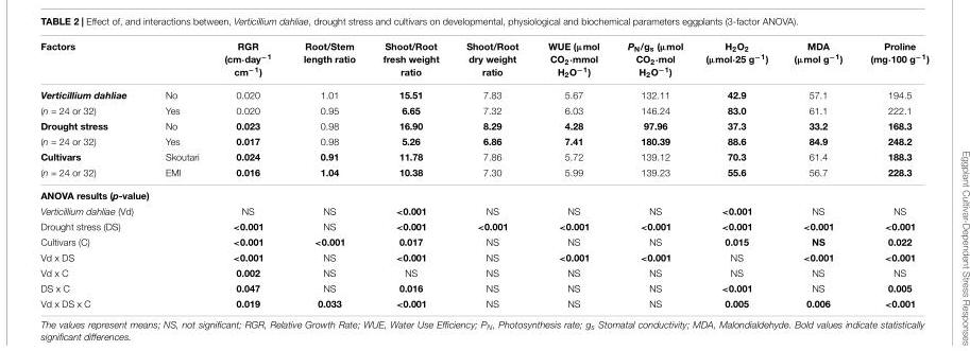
<table><thead><tr><td>Factors</td><td></td><td>RGR (cm·day−1 cm−1)</td><td>Root/Stem length ratio</td><td>Shoot/Root fresh weight ratio</td><td>Shoot/Root dry weight ratio</td><td>WUE (µmol CO2·mmol H2O−1)</td><td>PN/gs (µmol CO2·mol H2O−1)</td><td>H2O2 (µmol·25 g−1)</td><td>MDA (µmol g<sup>−1</sup>)</td><td>Proline (mg·100 g−1)</td></tr></thead><tbody><tr><td>Verticillium dahliae</td><td>No</td><td>0.020</td><td>1.01</td><td>15.51</td><td>7.83</td><td>5.67</td><td>132.11</td><td>42.9</td><td>57.1</td><td>194.5</td></tr><tr><td>(n = 24 or 32)</td><td>Yes</td><td>0.020</td><td>0.95</td><td>6.65</td><td>7.32</td><td>6.03</td><td>146.24</td><td>83.0</td><td>61.1</td><td>222.1</td></tr><tr><td>Drought stress</td><td>No</td><td>0.023</td><td>0.98</td><td>16.90</td><td>8.29</td><td>4.28</td><td>97.96</td><td>37.3</td><td>33.2</td><td>168.3</td></tr><tr><td>(n = 24 or 32)</td><td>Yes</td><td>0.017</td><td>0.98</td><td>5.26</td><td>6.86</td><td>7.41</td><td>180.39</td><td>88.6</td><td>84.9</td><td>248.2</td></tr><tr><td>Cultivars</td><td>Skoutari</td><td>0.024</td><td>0.91</td><td>11.78</td><td>7.86</td><td>5.72</td><td>139.12</td><td>70.3</td><td>61.4</td><td>188.3</td></tr><tr><td>(n = 24 or 32)</td><td>EMI</td><td>0.016</td><td>1.04</td><td>10.38</td><td>7.30</td><td>5.99</td><td>139.23</td><td>55.6</td><td>56.7</td><td>228.3</td></tr><tr><td colspan="11">ANOVA results (p-value)</td></tr><tr><td>Verticillium dahliae (Vd)</td><td></td><td>NS</td><td>NS</td><td>&lt;0.001</td><td>NS</td><td>NS</td><td>NS</td><td>&lt;0.001</td><td>NS</td><td>NS</td></tr><tr><td>Drought stress (DS)</td><td></td><td>&lt;0.001</td><td>NS</td><td>&lt;0.001</td><td>&lt;0.001</td><td>&lt;0.001</td><td>&lt;0.001</td><td>&lt;0.001</td><td>&lt;0.001</td><td>&lt;0.001</td></tr><tr><td>Cultivars (C)</td><td></td><td>&lt;0.001</td><td>&lt;0.001</td><td>0.017</td><td>NS</td><td>NS</td><td>NS</td><td>0.015</td><td>NS</td><td>0.022</td></tr><tr><td>Vd x DS</td><td></td><td>&lt;0.001</td><td>NS</td><td>&lt;0.001</td><td>NS</td><td>&lt;0.001</td><td>&lt;0.001</td><td>NS</td><td>&lt;0.001</td><td>&lt;0.001</td></tr><tr><td>Vd x C</td><td></td><td>0.002</td><td>NS</td><td>NS</td><td>NS</td><td>NS</td><td>NS</td><td>NS</td><td>NS</td><td>NS</td></tr><tr><td>DS x C</td><td></td><td>0.047</td><td>NS</td><td>0.016</td><td>NS</td><td>NS</td><td>NS</td><td>&lt;0.001</td><td>NS</td><td>0.005</td></tr><tr><td>Vd x DS x C</td><td></td><td>0.019</td><td>0.033</td><td>&lt;0.001</td><td>NS</td><td>NS</td><td>NS</td><td>0.005</td><td>0.006</td><td>&lt;0.001</td></tr></tbody></table>